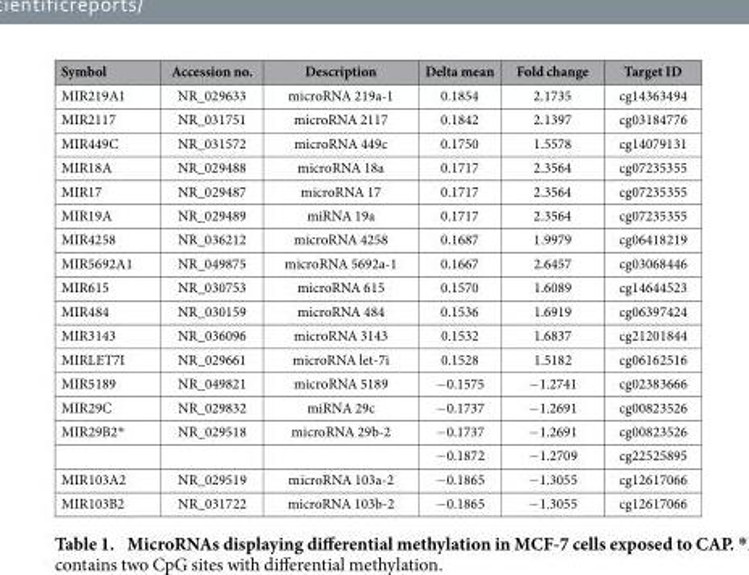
<table><thead><tr><td>Symbol</td><td>Accession no.</td><td>Description</td><td>Delta mean</td><td>Fold change</td><td>Target ID</td></tr></thead><tbody><tr><td>MIR219A1</td><td>NR_029633</td><td>microRNA 219a-1</td><td>0.1854</td><td>2.1735</td><td>cg14363494</td></tr><tr><td>MIR2117</td><td>NR_031751</td><td>microRNA 2117</td><td>0.1842</td><td>2.1397</td><td>cg03184776</td></tr><tr><td>MIR449C</td><td>NR_031572</td><td>microRNA 449c</td><td>0.1750</td><td>1.5578</td><td>cg14079131</td></tr><tr><td>MIR18A</td><td>NR_029488</td><td>microRNA 18a</td><td>0.1717</td><td>2.3564</td><td>cg07235355</td></tr><tr><td>MIR17</td><td>NR_029487</td><td>microRNA 17</td><td>0.1717</td><td>2.3564</td><td>cg07235355</td></tr><tr><td>MIR19A</td><td>NR_029489</td><td>miRNA 19a</td><td>0.1717</td><td>2.3564</td><td>cg07235355</td></tr><tr><td>MIR4258</td><td>NR_036212</td><td>microRNA 4258</td><td>0.1687</td><td>1.9979</td><td>cg06418219</td></tr><tr><td>MIR5692A1</td><td>NR_049875</td><td>microRNA 5692a-1</td><td>0.1667</td><td>2.6457</td><td>cg03068446</td></tr><tr><td>MIR615</td><td>NR_030753</td><td>microRNA 615</td><td>0.1570</td><td>1.6089</td><td>cg14644523</td></tr><tr><td>MIR484</td><td>NR_030159</td><td>microRNA 484</td><td>0.1536</td><td>1.6919</td><td>cg06397424</td></tr><tr><td>MIR3143</td><td>NR_036096</td><td>microRNA 3143</td><td>0.1532</td><td>1.6837</td><td>cg21201844</td></tr><tr><td>MIRLET7I</td><td>NR_029661</td><td>microRNA let-7i</td><td>0.1528</td><td>1.5182</td><td>cg06162516</td></tr><tr><td>MIR5189</td><td>NR_049821</td><td>microRNA 5189</td><td>− 0.1575</td><td>− 1.2741</td><td>cg02383666</td></tr><tr><td>MIR29C</td><td>NR_029832</td><td>miRNA 29c</td><td>− 0.1737</td><td>− 1.2691</td><td>cg00823526</td></tr><tr><td rowspan="2">MIR29B2*</td><td>NR_029518</td><td>microRNA 29b-2</td><td>− 0.1737</td><td>− 1.2691</td><td>cg00823526</td></tr><tr><td></td><td></td><td>− 0.1872</td><td>− 1.2709</td><td>cg22525895</td></tr><tr><td>MIR103A2</td><td>NR_029519</td><td>microRNA 103a-2</td><td>− 0.1865</td><td>− 1.3055</td><td>cg12617066</td></tr><tr><td>MIR103B2</td><td>NR_031722</td><td>microRNA 103b-2</td><td>− 0.1865</td><td>− 1.3055</td><td>cg12617066</td></tr></tbody></table>